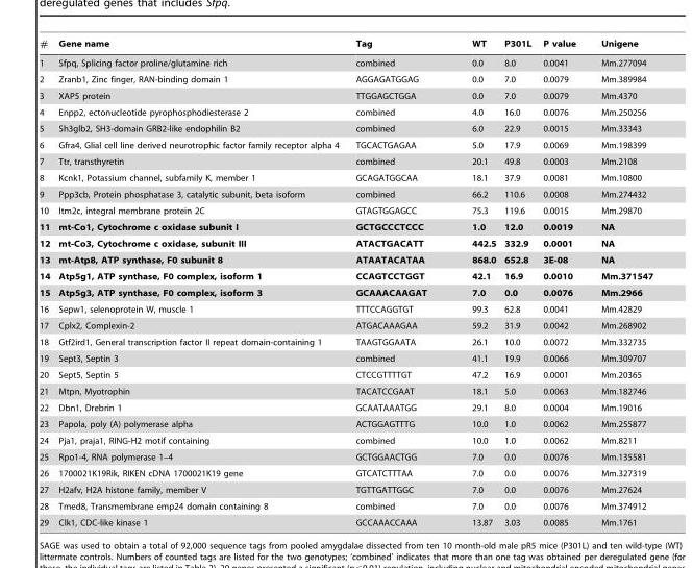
<table><thead><tr><td>#</td><td>Gene name</td><td>Tag</td><td>WT</td><td>P301L</td><td>P value</td><td>Unigene</td></tr></thead><tbody><tr><td>1</td><td>Sfpq, Splicing factor proline/glutamine rich</td><td>combined</td><td>0.0</td><td>8.0</td><td>0.0041</td><td>Mm.277094</td></tr><tr><td>2</td><td>Zranb1, Zinc finger, RAN-binding domain 1</td><td>AGGAGATGGAG</td><td>0.0</td><td>7.0</td><td>0.0079</td><td>Mm.389984</td></tr><tr><td>3</td><td>XAP5 protein</td><td>TTGGAGCTGGA</td><td>0.0</td><td>7.0</td><td>0.0079</td><td>Mm.4370</td></tr><tr><td>4</td><td>Enpp2, ectonucleotide pyrophosphodiesterase 2</td><td>combined</td><td>4.0</td><td>16.0</td><td>0.0076</td><td>Mm.250256</td></tr><tr><td>5</td><td>Sh3glb2, SH3-domain GRB2-like endophilin B2</td><td>combined</td><td>6.0</td><td>22.9</td><td>0.0015</td><td>Mm.33343</td></tr><tr><td>6</td><td>Gfra4, Glial cell line derived neurotrophic factor family receptor alpha 4</td><td>TGCACTGAGAA</td><td>5.0</td><td>17.9</td><td>0.0069</td><td>Mm.198399</td></tr><tr><td>7</td><td>Ttr, transthyretin</td><td>combined</td><td>20.1</td><td>49.8</td><td>0.0003</td><td>Mm.2108</td></tr><tr><td>8</td><td>Kcnk1, Potassium channel, subfamily K, member 1</td><td>GCAGATGGCAA</td><td>18.1</td><td>37.9</td><td>0.0081</td><td>Mm.10800</td></tr><tr><td>9</td><td>Ppp3cb, Protein phosphatase 3, catalytic subunit, beta isoform</td><td>combined</td><td>66.2</td><td>110.6</td><td>0.0008</td><td>Mm.274432</td></tr><tr><td>10</td><td>Itm2c, integral membrane protein 2C</td><td>GTAGTGGAGCC</td><td>75.3</td><td>119.6</td><td>0.0015</td><td>Mm.29870</td></tr><tr><td>11</td><td>mt-Co1, Cytochrome c oxidase subunit I</td><td>GCTGCCCTCCC</td><td>1.0</td><td>12.0</td><td>0.0019</td><td>NA</td></tr><tr><td>12</td><td>mt-Co3, Cytochrome c oxidase, subunit III</td><td>ATACTGACATT</td><td>442.5</td><td>332.9</td><td>0.0001</td><td>NA</td></tr><tr><td>13</td><td>mt-Atp8, ATP synthase, F0 subunit 8</td><td>ATAATACATAA</td><td>868.0</td><td>652.8</td><td>3E-08</td><td>NA</td></tr><tr><td>14</td><td>Atp5g1, ATP synthase, F0 complex, isoform 1</td><td>CCAGTCCTGGT</td><td>42.1</td><td>16.9</td><td>0.0010</td><td>Mm.371547</td></tr><tr><td>15</td><td>Atp5g3, ATP synthase, F0 complex, isoform 3</td><td>GCAAACAAGAT</td><td>7.0</td><td>0.0</td><td>0.0076</td><td>Mm.2966</td></tr><tr><td>16</td><td>Sepw1, selenoprotein W, muscle 1</td><td>TTTCCAGGTGT</td><td>99.3</td><td>62.8</td><td>0.0041</td><td>Mm.42829</td></tr><tr><td>17</td><td>Cplx2, Complexin-2</td><td>ATGACAAAGAA</td><td>59.2</td><td>31.9</td><td>0.0042</td><td>Mm.268902</td></tr><tr><td>18</td><td>Gtf2ird1, General transcription factor II repeat domain-containing 1</td><td>TAAGTGGAATA</td><td>26.1</td><td>10.0</td><td>0.0072</td><td>Mm.332735</td></tr><tr><td>19</td><td>Sept3, Septin 3</td><td>combined</td><td>41.1</td><td>19.9</td><td>0.0066</td><td>Mm.309707</td></tr><tr><td>20</td><td>Sept5, Septin 5</td><td>CTCCGTTTTGT</td><td>47.2</td><td>16.9</td><td>0.0001</td><td>Mm.20365</td></tr><tr><td>21</td><td>Mtpn, Myotrophin</td><td>TACATCCGAAT</td><td>18.1</td><td>5.0</td><td>0.0063</td><td>Mm.182746</td></tr><tr><td>22</td><td>Dbn1, Drebrin 1</td><td>GCAATAAATGG</td><td>29.1</td><td>8.0</td><td>0.0004</td><td>Mm.19016</td></tr><tr><td>23</td><td>Papola, poly (A) polymerase alpha</td><td>ACTGGAGTTTG</td><td>10.0</td><td>1.0</td><td>0.0062</td><td>Mm.255877</td></tr><tr><td>24</td><td>Pja1, praja1, RING-H2 motif containing</td><td>combined</td><td>10.0</td><td>1.0</td><td>0.0062</td><td>Mm.8211</td></tr><tr><td>25</td><td>Rpo1-4, RNA polymerase 1–4</td><td>GCTGGAACTGG</td><td>7.0</td><td>0.0</td><td>0.0076</td><td>Mm.135581</td></tr><tr><td>26</td><td>1700021K19Rik, RIKEN cDNA 1700021K19 gene</td><td>GTCATCTTTAA</td><td>7.0</td><td>0.0</td><td>0.0076</td><td>Mm.327319</td></tr><tr><td>27</td><td>H2afv, H2A histone family, member V</td><td>TGTTGATTGGC</td><td>7.0</td><td>0.0</td><td>0.0076</td><td>Mm.27624</td></tr><tr><td>28</td><td>Tmed8, Transmembrane emp24 domain containing 8</td><td>combined</td><td>7.0</td><td>0.0</td><td>0.0076</td><td>Mm.374912</td></tr><tr><td>29</td><td>Clk1, CDC-like kinase 1</td><td>GCCAAACCAAA</td><td>13.87</td><td>3.03</td><td>0.0085</td><td>Mm.1761</td></tr></tbody></table>